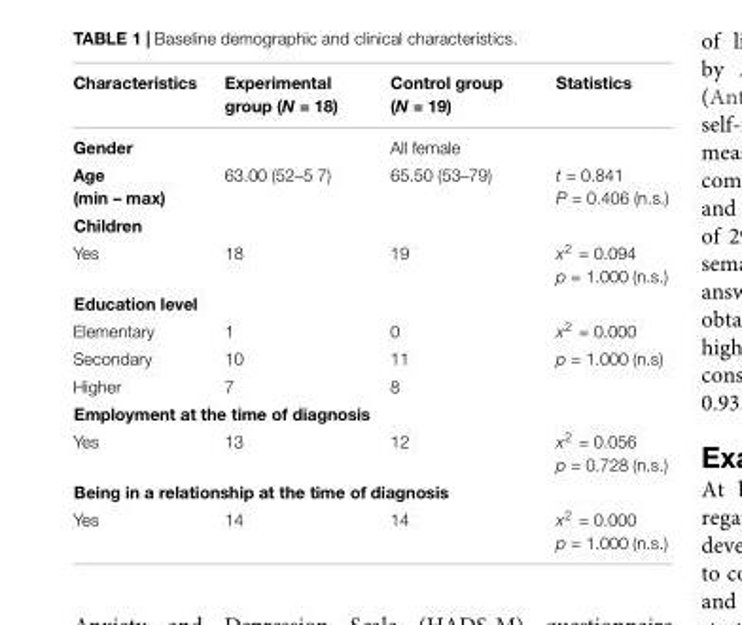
<table><thead><tr><td>Characteristics</td><td>Experimental group (N = 18)</td><td>Control group (N = 19)</td><td>Statistics</td></tr></thead><tbody><tr><td>Gender</td><td></td><td>All female</td><td></td></tr><tr><td>Age (min – max)</td><td>63.00 (52–5 7)</td><td>65.50 (53–79)</td><td>t = 0.841 P = 0.406 (n.s.)</td></tr><tr><td colspan="4">Children</td></tr><tr><td>Yes</td><td>18</td><td>19</td><td>x<sup>2</sup> = 0.094 p = 1.000 (n.s.)</td></tr><tr><td colspan="4">Education level</td></tr><tr><td>Elementary</td><td>1</td><td>0</td><td>x<sup>2</sup> = 0.000</td></tr><tr><td>Secondary</td><td>10</td><td>11</td><td>p = 1.000 (n.s)</td></tr><tr><td>Higher</td><td>7</td><td>8</td><td></td></tr><tr><td colspan="4">Employment at the time of diagnosis</td></tr><tr><td>Yes</td><td>13</td><td>12</td><td>x<sup>2</sup> = 0.056 p = 0.728 (n.s.)</td></tr><tr><td colspan="4">Being in a relationship at the time of diagnosis</td></tr><tr><td>Yes</td><td>14</td><td>14</td><td>x<sup>2</sup> = 0.000 p = 1.000 (n.s.)</td></tr></tbody></table>